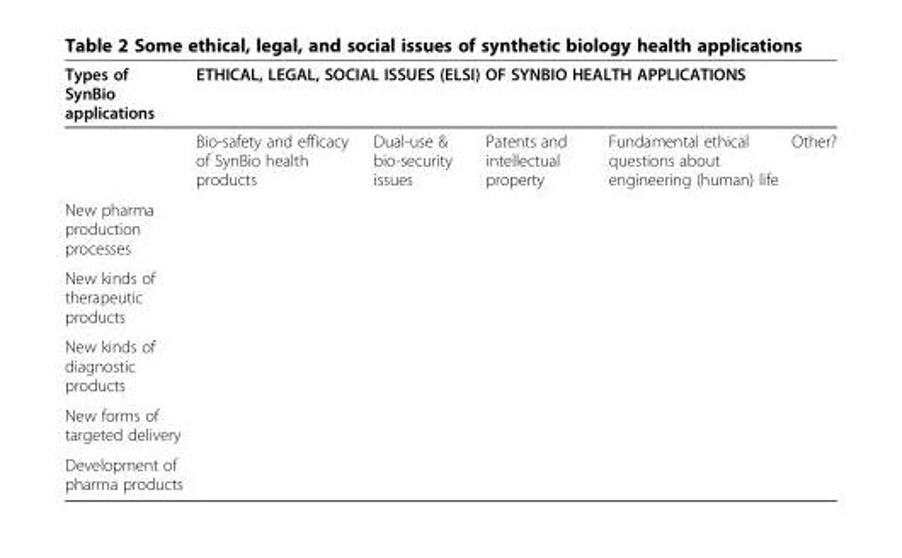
<table><thead><tr><td rowspan="2">Types of SynBio applications</td><td colspan="5">ETHICAL, LEGAL, SOCIAL ISSUES (ELSI) OF SYNBIO HEALTH APPLICATIONS</td></tr><tr><td>Bio-safety and efficacy of SynBio health products</td><td>Dual-use &amp; bio-security issues</td><td>Patents and intellectual property</td><td>Fundamental ethical questions about engineering (human) life</td><td>Other?</td></tr></thead><tbody><tr><td colspan="6">New pharma production processes</td></tr><tr><td colspan="6">New kinds of therapeutic products</td></tr><tr><td colspan="6">New kinds of diagnostic products</td></tr><tr><td colspan="6">New forms of targeted delivery</td></tr><tr><td>Development of pharma products</td><td></td><td></td><td></td><td></td><td></td></tr></tbody></table>